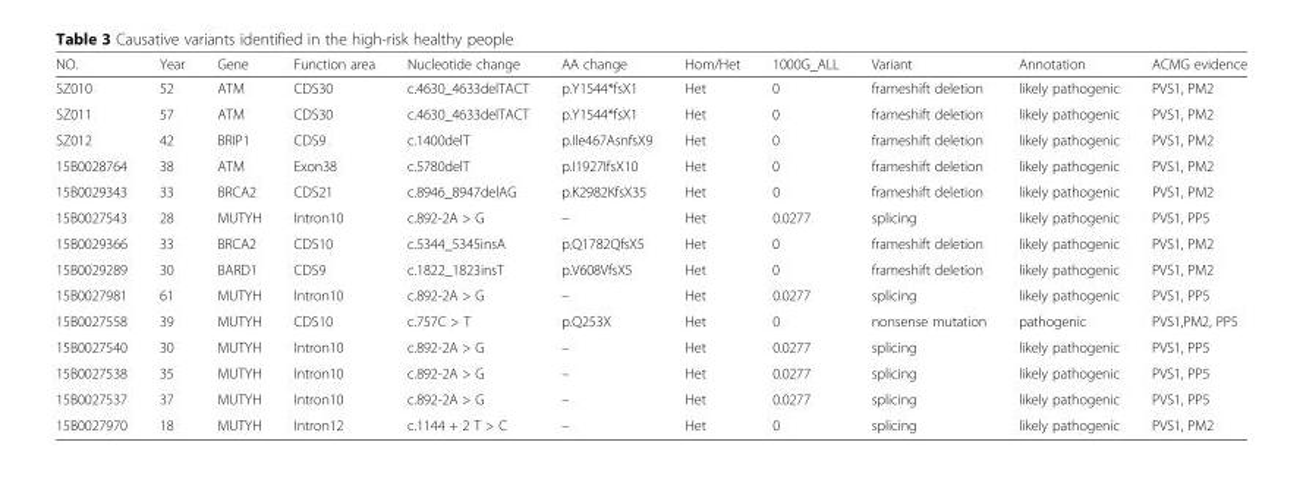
<table><thead><tr><td>NO.</td><td>Year</td><td>Gene</td><td>Function area</td><td>Nucleotide change</td><td>AA change</td><td>Hom/Het</td><td>1000G_ALL</td><td>Variant</td><td>Annotation</td><td>ACMG evidence</td></tr></thead><tbody><tr><td>SZ010</td><td>52</td><td>ATM</td><td>CDS30</td><td>c.4630_4633delTACT</td><td>p.Y1544*fsX1</td><td>Het</td><td>0</td><td>frameshift deletion</td><td>likely pathogenic</td><td>PVS1, PM2</td></tr><tr><td>SZ011</td><td>57</td><td>ATM</td><td>CDS30</td><td>c.4630_4633delTACT</td><td>p.Y1544*fsX1</td><td>Het</td><td>0</td><td>frameshift deletion</td><td>likely pathogenic</td><td>PVS1, PM2</td></tr><tr><td>SZ012</td><td>42</td><td>BRIP1</td><td>CDS9</td><td>c.1400delT</td><td>p.Ile467AsnfsX9</td><td>Het</td><td>0</td><td>frameshift deletion</td><td>likely pathogenic</td><td>PVS1, PM2</td></tr><tr><td>15B0028764</td><td>38</td><td>ATM</td><td>Exon38</td><td>c.5780delT</td><td>p.I1927IfsX10</td><td>Het</td><td>0</td><td>frameshift deletion</td><td>likely pathogenic</td><td>PVS1, PM2</td></tr><tr><td>15B0029343</td><td>33</td><td>BRCA2</td><td>CDS21</td><td>c.8946_8947delAG</td><td>p.K2982KfsX35</td><td>Het</td><td>0</td><td>frameshift deletion</td><td>likely pathogenic</td><td>PVS1, PM2</td></tr><tr><td>15B0027543</td><td>28</td><td>MUTYH</td><td>Intron10</td><td>c.892-2A &gt; G</td><td>–</td><td>Het</td><td>0.0277</td><td>splicing</td><td>likely pathogenic</td><td>PVS1, PP5</td></tr><tr><td>15B0029366</td><td>33</td><td>BRCA2</td><td>CDS10</td><td>c.5344_5345insA</td><td>p.Q1782QfsX5</td><td>Het</td><td>0</td><td>frameshift deletion</td><td>likely pathogenic</td><td>PVS1, PM2</td></tr><tr><td>15B0029289</td><td>30</td><td>BARD1</td><td>CDS9</td><td>c.1822_1823insT</td><td>p.V608VfsX5</td><td>Het</td><td>0</td><td>frameshift deletion</td><td>likely pathogenic</td><td>PVS1, PM2</td></tr><tr><td>15B0027981</td><td>61</td><td>MUTYH</td><td>Intron10</td><td>c.892-2A &gt; G</td><td>–</td><td>Het</td><td>0.0277</td><td>splicing</td><td>likely pathogenic</td><td>PVS1, PP5</td></tr><tr><td>15B0027558</td><td>39</td><td>MUTYH</td><td>CDS10</td><td>c.757C &gt; T</td><td>p.Q253X</td><td>Het</td><td>0</td><td>nonsense mutation</td><td>pathogenic</td><td>PVS1,PM2, PP5</td></tr><tr><td>15B0027540</td><td>30</td><td>MUTYH</td><td>Intron10</td><td>c.892-2A &gt; G</td><td>–</td><td>Het</td><td>0.0277</td><td>splicing</td><td>likely pathogenic</td><td>PVS1, PP5</td></tr><tr><td>15B0027538</td><td>35</td><td>MUTYH</td><td>Intron10</td><td>c.892-2A &gt; G</td><td>–</td><td>Het</td><td>0.0277</td><td>splicing</td><td>likely pathogenic</td><td>PVS1, PP5</td></tr><tr><td>15B0027537</td><td>37</td><td>MUTYH</td><td>Intron10</td><td>c.892-2A &gt; G</td><td>–</td><td>Het</td><td>0.0277</td><td>splicing</td><td>likely pathogenic</td><td>PVS1, PP5</td></tr><tr><td>15B0027970</td><td>18</td><td>MUTYH</td><td>Intron12</td><td>c.1144 + 2 T &gt; C</td><td>–</td><td>Het</td><td>0</td><td>splicing</td><td>likely pathogenic</td><td>PVS1, PM2</td></tr></tbody></table>